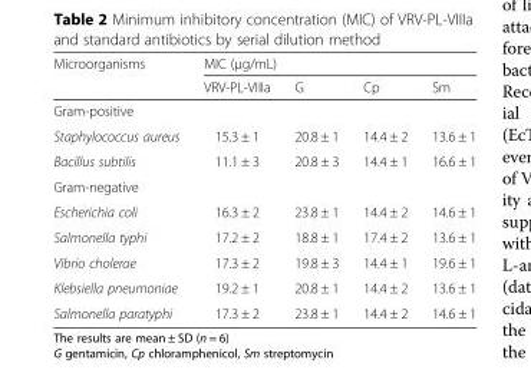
<table><thead><tr><td rowspan="2">Microorganisms</td><td colspan="4">MIC (μg/mL)</td></tr><tr><td>VRV-PL-VIIIa</td><td>G</td><td>Cp</td><td>Sm</td></tr></thead><tbody><tr><td colspan="5">Gram-positive</td></tr><tr><td>Staphylococcus aureus</td><td>15.3 ± 1</td><td>20.8 ± 1</td><td>14.4 ± 2</td><td>13.6 ± 1</td></tr><tr><td>Bacillus subtilis</td><td>11.1 ± 3</td><td>20.8 ± 3</td><td>14.4 ± 1</td><td>16.6 ± 1</td></tr><tr><td colspan="5">Gram-negative</td></tr><tr><td>Escherichia coli</td><td>16.3 ± 2</td><td>23.8 ± 1</td><td>14.4 ± 2</td><td>14.6 ± 1</td></tr><tr><td>Salmonella typhi</td><td>17.2 ± 2</td><td>18.8 ± 1</td><td>17.4 ± 2</td><td>13.6 ± 1</td></tr><tr><td>Vibrio cholerae</td><td>17.3 ± 2</td><td>19.8 ± 3</td><td>14.4 ± 1</td><td>19.6 ± 1</td></tr><tr><td>Klebsiella pneumoniae</td><td>19.2 ± 1</td><td>20.8 ± 1</td><td>14.4 ± 2</td><td>13.6 ± 1</td></tr><tr><td>Salmonella paratyphi</td><td>17.3 ± 2</td><td>23.8 ± 1</td><td>14.4 ± 2</td><td>14.6 ± 1</td></tr></tbody></table>